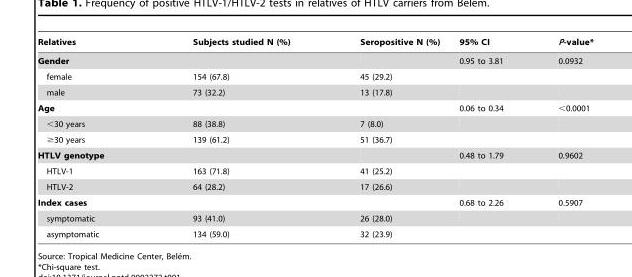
<table><thead><tr><td>Relatives</td><td>Subjects studied N (%)</td><td>Seropositive N (%)</td><td>95% CI</td><td>P-value*</td></tr></thead><tbody><tr><td>Gender</td><td></td><td></td><td>0.95 to 3.81</td><td>0.0932</td></tr><tr><td>female</td><td>154 (67.8)</td><td>45 (29.2)</td><td></td><td></td></tr><tr><td>male</td><td>73 (32.2)</td><td>13 (17.8)</td><td></td><td></td></tr><tr><td>Age</td><td></td><td></td><td>0.06 to 0.34</td><td>&lt;0.0001</td></tr><tr><td>&lt;30 years</td><td>88 (38.8)</td><td>7 (8.0)</td><td></td><td></td></tr><tr><td>≥30 years</td><td>139 (61.2)</td><td>51 (36.7)</td><td></td><td></td></tr><tr><td>HTLV genotype</td><td></td><td></td><td>0.48 to 1.79</td><td>0.9602</td></tr><tr><td>HTLV-1</td><td>163 (71.8)</td><td>41 (25.2)</td><td></td><td></td></tr><tr><td>HTLV-2</td><td>64 (28.2)</td><td>17 (26.6)</td><td></td><td></td></tr><tr><td>Index cases</td><td></td><td></td><td>0.68 to 2.26</td><td>0.5907</td></tr><tr><td>symptomatic</td><td>93 (41.0)</td><td>26 (28.0)</td><td></td><td></td></tr><tr><td>asymptomatic</td><td>134 (59.0)</td><td>32 (23.9)</td><td></td><td></td></tr></tbody></table>